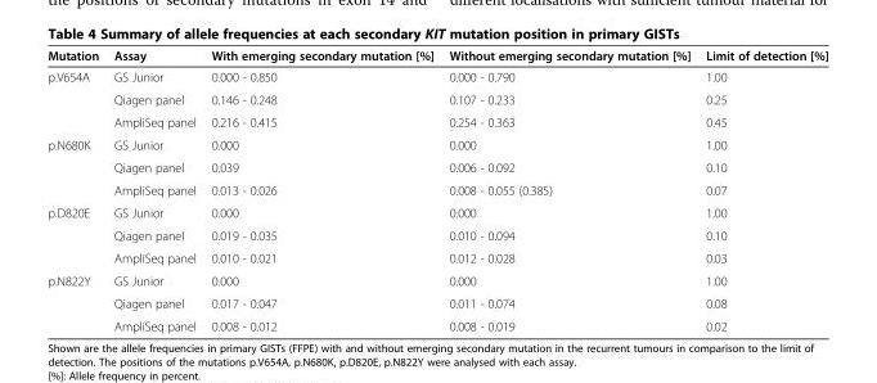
<table><thead><tr><td>Mutation</td><td>Assay</td><td>With emerging secondary mutation [%]</td><td>Without emerging secondary mutation [%]</td><td>Limit of detection [%]</td></tr></thead><tbody><tr><td rowspan="3">p.V654A</td><td>GS Junior</td><td>0.000 - 0.850</td><td>0.000 - 0.790</td><td>1.00</td></tr><tr><td>Qiagen panel</td><td>0.146 - 0.248</td><td>0.107 - 0.233</td><td>0.25</td></tr><tr><td>AmpliSeq panel</td><td>0.216 - 0.415</td><td>0.254 - 0.363</td><td>0.45</td></tr><tr><td rowspan="3">p.N680K</td><td>GS Junior</td><td>0.000</td><td>0.000</td><td>1.00</td></tr><tr><td>Qiagen panel</td><td>0.039</td><td>0.006 - 0.092</td><td>0.10</td></tr><tr><td>AmpliSeq panel</td><td>0.013 - 0.026</td><td>0.008 - 0.055 (0.385)</td><td>0.07</td></tr><tr><td rowspan="3">p.D820E</td><td>GS Junior</td><td>0.000</td><td>0.000</td><td>1.00</td></tr><tr><td>Qiagen panel</td><td>0.019 - 0.035</td><td>0.010 - 0.094</td><td>0.10</td></tr><tr><td>AmpliSeq panel</td><td>0.010 - 0.021</td><td>0.012 - 0.028</td><td>0.03</td></tr><tr><td rowspan="3">p.N822Y</td><td>GS Junior</td><td>0.000</td><td>0.000</td><td>1.00</td></tr><tr><td>Qiagen panel</td><td>0.017 - 0.047</td><td>0.011 - 0.074</td><td>0.08</td></tr><tr><td>AmpliSeq panel</td><td>0.008 - 0.012</td><td>0.008 - 0.019</td><td>0.02</td></tr></tbody></table>